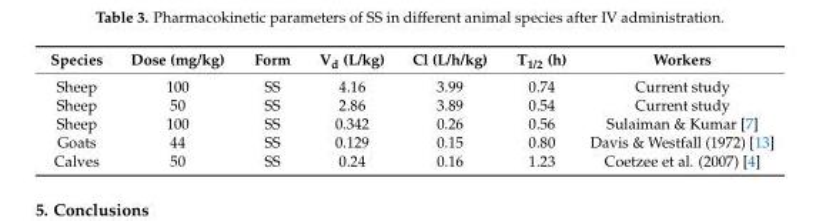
<table><thead><tr><td>Species</td><td>Dose (mg/kg)</td><td>Form</td><td>V<sub>d</sub> (L/kg)</td><td>Cl (L/h/kg)</td><td>T<sub>1/2</sub> (h)</td><td>Workers</td></tr></thead><tbody><tr><td>Sheep</td><td>100</td><td>SS</td><td>4.16</td><td>3.99</td><td>0.74</td><td>Current study</td></tr><tr><td>Sheep</td><td>50</td><td>SS</td><td>2.86</td><td>3.89</td><td>0.54</td><td>Current study</td></tr><tr><td>Sheep</td><td>100</td><td>SS</td><td>0.342</td><td>0.26</td><td>0.56</td><td>Sulaiman &amp; Kumar [7]</td></tr><tr><td>Goats</td><td>44</td><td>SS</td><td>0.129</td><td>0.15</td><td>0.80</td><td>Davis &amp; Westfall (1972) [13]</td></tr><tr><td>Calves</td><td>50</td><td>SS</td><td>0.24</td><td>0.16</td><td>1.23</td><td>Coetzee et al. (2007) [4]</td></tr></tbody></table>